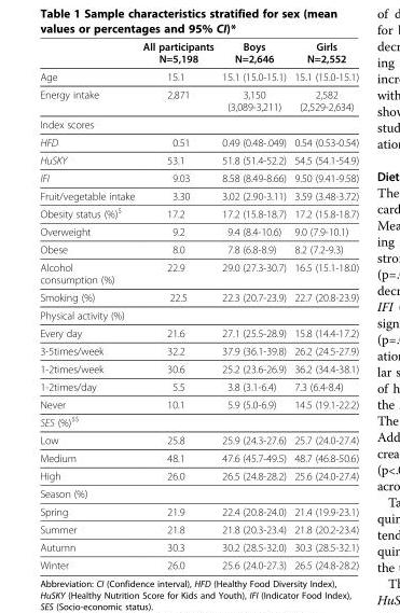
<table><thead><tr><td></td><td>All participants N=5,198</td><td>Boys N=2,646</td><td>Girls N=2,552</td></tr></thead><tbody><tr><td>Age</td><td>15.1</td><td>15.1 (15.0-15.1)</td><td>15.1 (15.0-15.1)</td></tr><tr><td>Energy intake</td><td>2,871</td><td>3,150 (3,089-3,211)</td><td>2,582 (2,529-2,634)</td></tr><tr><td colspan="4">Index scores</td></tr><tr><td>HFD</td><td>0.51</td><td>0.49 (0.48-.049)</td><td>0.54 (0.53-0.54)</td></tr><tr><td>HuSKY</td><td>53.1</td><td>51.8 (51.4-52.2)</td><td>54.5 (54.1-54.9)</td></tr><tr><td>IFI</td><td>9.03</td><td>8.58 (8.49-8.66)</td><td>9.50 (9.41-9.58)</td></tr><tr><td>Fruit/vegetable intake</td><td>3.30</td><td>3.02 (2.90-3.11)</td><td>3.59 (3.48-3.72)</td></tr><tr><td>Obesity status (%)<sup>$</sup></td><td>17.2</td><td>17.2 (15.8-18.7)</td><td>17.2 (15.8-18.7)</td></tr><tr><td>Overweight</td><td>9.2</td><td>9.4 (8.4-10.6)</td><td>9.0 (7.9-10.1)</td></tr><tr><td>Obese</td><td>8.0</td><td>7.8 (6.8-8.9)</td><td>8.2 (7.2-9.3)</td></tr><tr><td>Alcohol consumption (%)</td><td>22.9</td><td>29.0 (27.3-30.7)</td><td>16.5 (15.1-18.0)</td></tr><tr><td>Smoking (%)</td><td>22.5</td><td>22.3 (20.7-23.9)</td><td>22.7 (20.8-23.9)</td></tr><tr><td colspan="4">Physical activity (%)</td></tr><tr><td>Every day</td><td>21.6</td><td>27.1 (25.5-28.9)</td><td>15.8 (14.4-17.2)</td></tr><tr><td>3-5times/week</td><td>32.2</td><td>37.9 (36.1-39.8)</td><td>26.2 (24.5-27.9)</td></tr><tr><td>1-2times/week</td><td>30.6</td><td>25.2 (23.6-26.9)</td><td>36.2 (34.4-38.1)</td></tr><tr><td>1-2times/day</td><td>5.5</td><td>3.8 (3.1-6.4)</td><td>7.3 (6.4-8.4)</td></tr><tr><td>Never</td><td>10.1</td><td>5.9 (5.0-6.9)</td><td>14.5 (19.1-22.2)</td></tr><tr><td colspan="4">SES (%)<sup>$$</sup></td></tr><tr><td>Low</td><td>25.8</td><td>25.9 (24.3-27.6)</td><td>25.7 (24.0-27.4)</td></tr><tr><td>Medium</td><td>48.1</td><td>47.6 (45.7-49.5)</td><td>48.7 (46.8-50.6)</td></tr><tr><td>High</td><td>26.0</td><td>26.5 (24.8-28.2)</td><td>25.6 (24.0-27.4)</td></tr><tr><td colspan="4">Season (%)</td></tr><tr><td>Spring</td><td>21.9</td><td>22.4 (20.8-24.0)</td><td>21.4 (19.9-23.1)</td></tr><tr><td>Summer</td><td>21.8</td><td>21.8 (20.3-23.4)</td><td>21.8 (20.2-23.4)</td></tr><tr><td>Autumn</td><td>30.3</td><td>30.2 (28.5-32.0)</td><td>30.3 (28.5-32.1)</td></tr><tr><td>Winter</td><td>26.0</td><td>25.6 (24.0-27.3)</td><td>26.5 (24.8-28.2)</td></tr></tbody></table>